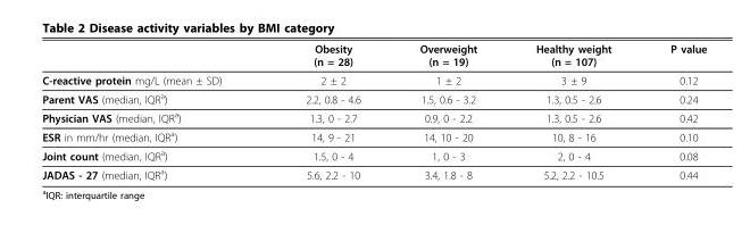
<table><thead><tr><td></td><td>Obesity (n = 28)</td><td>Overweight (n = 19)</td><td>Healthy weight (n = 107)</td><td>P value</td></tr></thead><tbody><tr><td>C-reactive protein mg/L (mean ± SD)</td><td>2 ± 2</td><td>1 ± 2</td><td>3 ± 9</td><td>0.12</td></tr><tr><td>Parent VAS (median, IQR<sup>a</sup>)</td><td>2.2, 0.8 - 4.6</td><td>1.5, 0.6 - 3.2</td><td>1.3, 0.5 - 2.6</td><td>0.24</td></tr><tr><td>Physician VAS (median, IQR<sup>a</sup>)</td><td>1.3, 0 - 2.7</td><td>0.9, 0 - 2.2</td><td>1.3, 0.5 - 2.6</td><td>0.42</td></tr><tr><td>ESR in mm/hr (median, IQR<sup>a</sup>)</td><td>14, 9 - 21</td><td>14, 10 - 20</td><td>10, 8 - 16</td><td>0.10</td></tr><tr><td>Joint count (median, IQR<sup>a</sup>)</td><td>1.5, 0 - 4</td><td>1, 0 - 3</td><td>2, 0 - 4</td><td>0.08</td></tr><tr><td>JADAS - 27 (median, IQR<sup>a</sup>)</td><td>5.6, 2.2 - 10</td><td>3.4, 1.8 - 8</td><td>5.2, 2.2 - 10.5</td><td>0.44</td></tr></tbody></table>